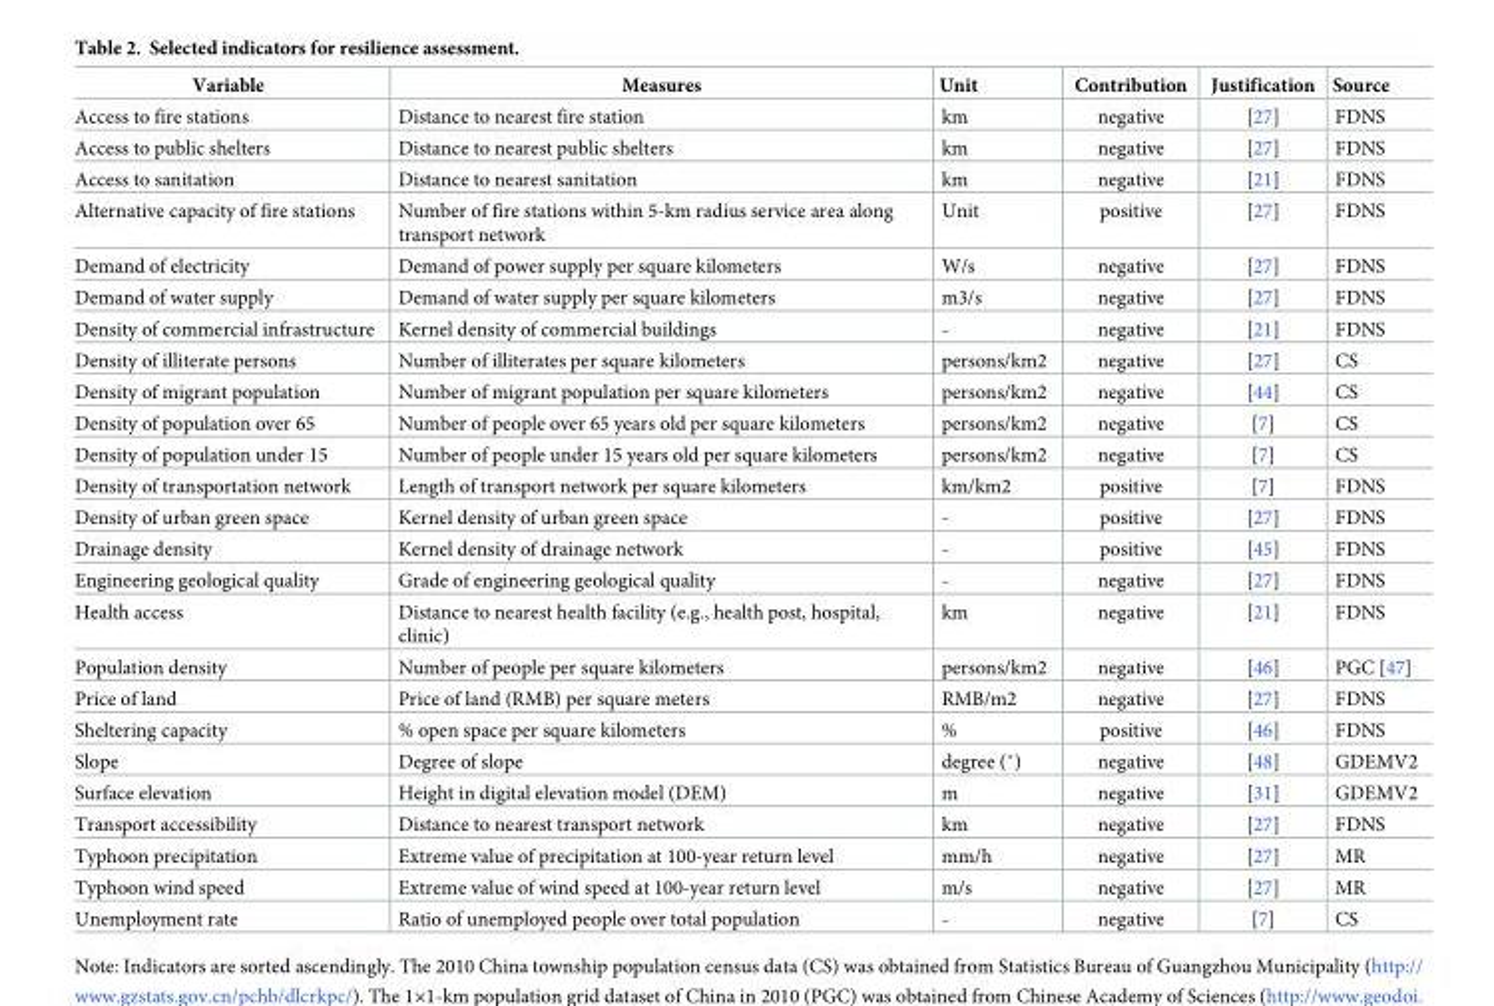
<table><thead><tr><td>Variable</td><td>Measures</td><td>Unit</td><td>Contribution</td><td>Justification</td><td>Source</td></tr></thead><tbody><tr><td>Access to fire stations</td><td>Distance to nearest fire station</td><td>km</td><td>negative</td><td>[27]</td><td>FDNS</td></tr><tr><td>Access to public shelters</td><td>Distance to nearest public shelters</td><td>km</td><td>negative</td><td>[27]</td><td>FDNS</td></tr><tr><td>Access to sanitation</td><td>Distance to nearest sanitation</td><td>km</td><td>negative</td><td>[21]</td><td>FDNS</td></tr><tr><td>Alternative capacity of fire stations</td><td>Number of fire stations within 5-km radius service area along transport network</td><td>Unit</td><td>positive</td><td>[27]</td><td>FDNS</td></tr><tr><td>Demand of electricity</td><td>Demand of power supply per square kilometers</td><td>W/s</td><td>negative</td><td>[27]</td><td>FDNS</td></tr><tr><td>Demand of water supply</td><td>Demand of water supply per square kilometers</td><td>m3/s</td><td>negative</td><td>[27]</td><td>FDNS</td></tr><tr><td>Density of commercial infrastructure</td><td>Kernel density of commercial buildings</td><td>-</td><td>negative</td><td>[21]</td><td>FDNS</td></tr><tr><td>Density of illiterate persons</td><td>Number of illiterates per square kilometers</td><td>persons/km2</td><td>negative</td><td>[27]</td><td>CS</td></tr><tr><td>Density of migrant population</td><td>Number of migrant population per square kilometers</td><td>persons/km2</td><td>negative</td><td>[44]</td><td>CS</td></tr><tr><td>Density of population over 65</td><td>Number of people over 65 years old per square kilometers</td><td>persons/km2</td><td>negative</td><td>[7]</td><td>CS</td></tr><tr><td>Density of population under 15</td><td>Number of people under 15 years old per square kilometers</td><td>persons/km2</td><td>negative</td><td>[7]</td><td>CS</td></tr><tr><td>Density of transportation network</td><td>Length of transport network per square kilometers</td><td>km/km2</td><td>positive</td><td>[7]</td><td>FDNS</td></tr><tr><td>Density of urban green space</td><td>Kernel density of urban green space</td><td>-</td><td>positive</td><td>[27]</td><td>FDNS</td></tr><tr><td>Drainage density</td><td>Kernel density of drainage network</td><td>-</td><td>positive</td><td>[45]</td><td>FDNS</td></tr><tr><td>Engineering geological quality</td><td>Grade of engineering geological quality</td><td>-</td><td>negative</td><td>[27]</td><td>FDNS</td></tr><tr><td>Health access</td><td>Distance to nearest health facility (e.g., health post, hospital, clinic)</td><td>km</td><td>negative</td><td>[21]</td><td>FDNS</td></tr><tr><td>Population density</td><td>Number of people per square kilometers</td><td>persons/km2</td><td>negative</td><td>[46]</td><td>PGC [47]</td></tr><tr><td>Price of land</td><td>Price of land (RMB) per square meters</td><td>RMB/m2</td><td>negative</td><td>[27]</td><td>FDNS</td></tr><tr><td>Sheltering capacity</td><td>% open space per square kilometers</td><td>%</td><td>positive</td><td>[46]</td><td>FDNS</td></tr><tr><td>Slope</td><td>Degree of slope</td><td>degree (˚)</td><td>negative</td><td>[48]</td><td>GDEMV2</td></tr><tr><td>Surface elevation</td><td>Height in digital elevation model (DEM)</td><td>m</td><td>negative</td><td>[31]</td><td>GDEMV2</td></tr><tr><td>Transport accessibility</td><td>Distance to nearest transport network</td><td>km</td><td>negative</td><td>[27]</td><td>FDNS</td></tr><tr><td>Typhoon precipitation</td><td>Extreme value of precipitation at 100-year return level</td><td>mm/h</td><td>negative</td><td>[27]</td><td>MR</td></tr><tr><td>Typhoon wind speed</td><td>Extreme value of wind speed at 100-year return level</td><td>m/s</td><td>negative</td><td>[27]</td><td>MR</td></tr><tr><td>Unemployment rate</td><td>Ratio of unemployed people over total population</td><td>-</td><td>negative</td><td>[7]</td><td>CS</td></tr></tbody></table>